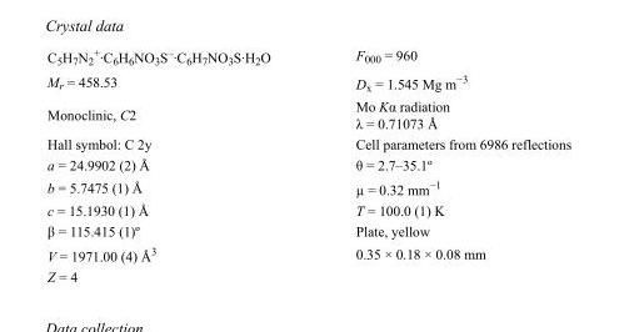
<table><tbody><tr><td>C<sub>5</sub>H<sub>7</sub>N<sub>2</sub> <sup>+</sup>·C<sub>6</sub>H<sub>6</sub>NO<sub>3</sub>S<sup>–</sup>·C<sub>6</sub>H<sub>7</sub>NO<sub>3</sub>S·H<sub>2</sub>O</td><td>F<sub>000</sub> = 960</td></tr><tr><td>M<sub>r</sub> = 458.53</td><td>D<sub>x</sub> = 1.545 Mg m<sup>−3</sup></td></tr><tr><td>Monoclinic, C2</td><td>Mo Kα radiation λ = 0.71073 Å</td></tr><tr><td>Hall symbol: C 2y</td><td>Cell parameters from 6986 reflections</td></tr><tr><td>a = 24.9902 (2) Å</td><td>θ = 2.7–35.1º</td></tr><tr><td>b = 5.7475 (1) Å</td><td>µ = 0.32 mm<sup>−1</sup></td></tr><tr><td>c = 15.1930 (1) Å</td><td>T = 100.0 (1) K</td></tr><tr><td>β = 115.415 (1)º</td><td>Plate, yellow</td></tr><tr><td>V = 1971.00 (4) Å<sup>3</sup></td><td>0.35 × 0.18 × 0.08 mm</td></tr><tr><td>Z = 4</td><td></td></tr></tbody></table>